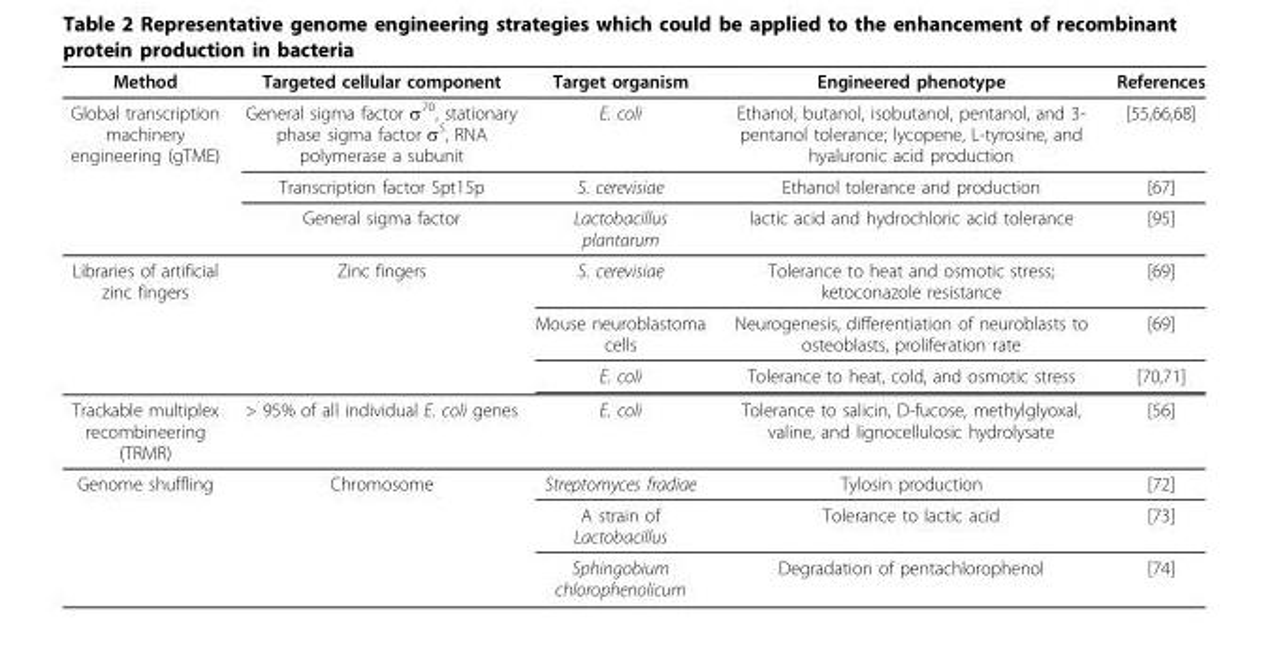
<table><thead><tr><td>Method</td><td>Targeted cellular component</td><td>Target organism</td><td>Engineered phenotype</td><td>References</td></tr></thead><tbody><tr><td rowspan="3">Global transcription machinery engineering (gTME)</td><td>General sigma factor σ<sup>70</sup>, stationary phase sigma factor σ<sup>S</sup>, RNA polymerase a subunit</td><td>E. coli</td><td>Ethanol, butanol, isobutanol, pentanol, and 3- pentanol tolerance; lycopene, L-tyrosine, and hyaluronic acid production</td><td>[55,66,68]</td></tr><tr><td>Transcription factor Spt15p</td><td>S. cerevisiae</td><td>Ethanol tolerance and production</td><td>[67]</td></tr><tr><td>General sigma factor</td><td>Lactobacillus plantarum</td><td>lactic acid and hydrochloric acid tolerance</td><td>[95]</td></tr><tr><td rowspan="3">Libraries of artificial zinc fingers</td><td>Zinc fingers</td><td>S. cerevisiae</td><td>Tolerance to heat and osmotic stress; ketoconazole resistance</td><td>[69]</td></tr><tr><td></td><td>Mouse neuroblastoma cells</td><td>Neurogenesis, differentiation of neuroblasts to osteoblasts, proliferation rate</td><td>[69]</td></tr><tr><td></td><td>E. coli</td><td>Tolerance to heat, cold, and osmotic stress</td><td>[70,71]</td></tr><tr><td>Trackable multiplex recombineering (TRMR)</td><td>&gt; 95% of all individual E. coli genes</td><td>E. coli</td><td>Tolerance to salicin, D-fucose, methylglyoxal, valine, and lignocellulosic hydrolysate</td><td>[56]</td></tr><tr><td rowspan="3">Genome shuffling</td><td>Chromosome</td><td>Streptomyces fradiae</td><td>Tylosin production</td><td>[72]</td></tr><tr><td></td><td>A strain of Lactobacillus</td><td>Tolerance to lactic acid</td><td>[73]</td></tr><tr><td></td><td>Sphingobium chlorophenolicum</td><td>Degradation of pentachlorophenol</td><td>[74]</td></tr></tbody></table>